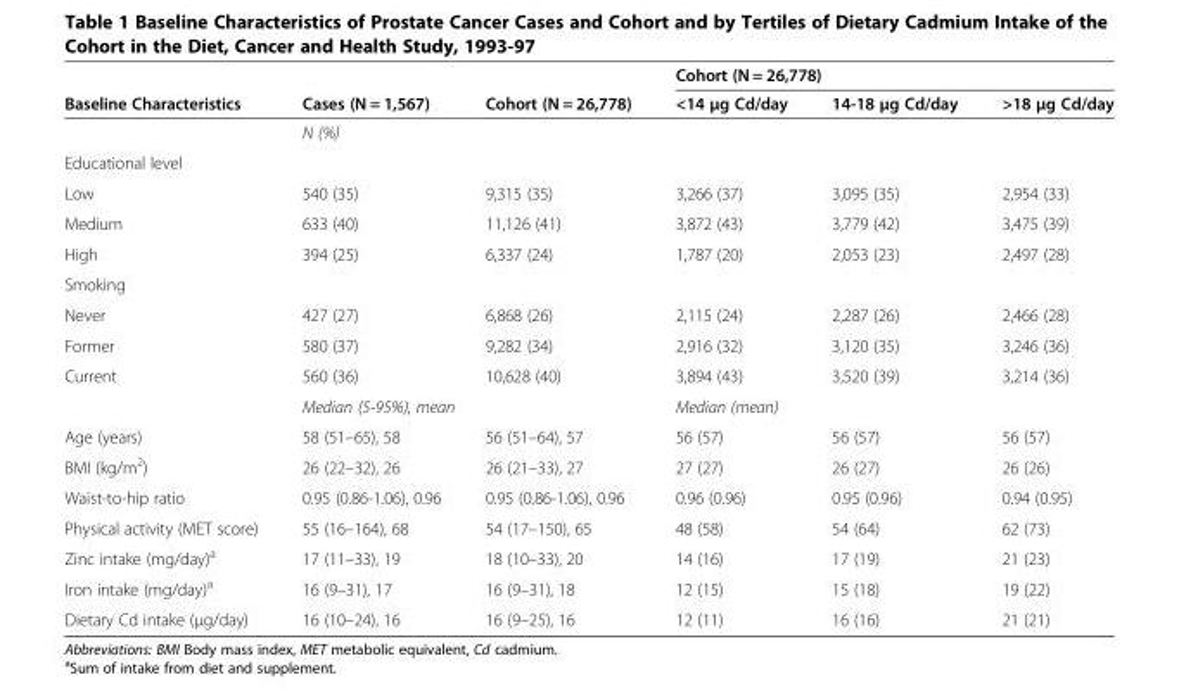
<table><thead><tr><td rowspan="2">Baseline Characteristics</td><td rowspan="2">Cases (N = 1,567)</td><td rowspan="2">Cohort (N = 26,778)</td><td colspan="3">Cohort (N = 26,778)</td></tr><tr><td>&lt;14 μg Cd/day</td><td>14-18 μg Cd/day</td><td>&gt;18 μg Cd/day</td></tr></thead><tbody><tr><td></td><td colspan="2">N (%)</td><td></td><td></td><td></td></tr><tr><td colspan="6">Educational level</td></tr><tr><td>Low</td><td>540 (35)</td><td>9,315 (35)</td><td>3,266 (37)</td><td>3,095 (35)</td><td>2,954 (33)</td></tr><tr><td>Medium</td><td>633 (40)</td><td>11,126 (41)</td><td>3,872 (43)</td><td>3,779 (42)</td><td>3,475 (39)</td></tr><tr><td>High</td><td>394 (25)</td><td>6,337 (24)</td><td>1,787 (20)</td><td>2,053 (23)</td><td>2,497 (28)</td></tr><tr><td colspan="6">Smoking</td></tr><tr><td>Never</td><td>427 (27)</td><td>6,868 (26)</td><td>2,115 (24)</td><td>2,287 (26)</td><td>2,466 (28)</td></tr><tr><td>Former</td><td>580 (37)</td><td>9,282 (34)</td><td>2,916 (32)</td><td>3,120 (35)</td><td>3,246 (36)</td></tr><tr><td rowspan="2">Current</td><td>560 (36)</td><td>10,628 (40)</td><td>3,894 (43)</td><td>3,520 (39)</td><td>3,214 (36)</td></tr><tr><td colspan="2">Median (5-95%), mean</td><td colspan="3">Median (mean)</td></tr><tr><td>Age (years)</td><td>58 (51–65), 58</td><td>56 (51–64), 57</td><td>56 (57)</td><td>56 (57)</td><td>56 (57)</td></tr><tr><td>BMI (kg/m<sup>2</sup>)</td><td>26 (22–32), 26</td><td>26 (21–33), 27</td><td>27 (27)</td><td>26 (27)</td><td>26 (26)</td></tr><tr><td>Waist-to-hip ratio</td><td>0.95 (0.86-1.06), 0.96</td><td>0.95 (0.86-1.06), 0.96</td><td>0.96 (0.96)</td><td>0.95 (0.96)</td><td>0.94 (0.95)</td></tr><tr><td>Physical activity (MET score)</td><td>55 (16–164), 68</td><td>54 (17–150), 65</td><td>48 (58)</td><td>54 (64)</td><td>62 (73)</td></tr><tr><td>Zinc intake (mg/day)<sup>a</sup></td><td>17 (11–33), 19</td><td>18 (10–33), 20</td><td>14 (16)</td><td>17 (19)</td><td>21 (23)</td></tr><tr><td>Iron intake (mg/day)<sup>a</sup></td><td>16 (9–31), 17</td><td>16 (9–31), 18</td><td>12 (15)</td><td>15 (18)</td><td>19 (22)</td></tr><tr><td>Dietary Cd intake (μg/day)</td><td>16 (10–24), 16</td><td>16 (9–25), 16</td><td>12 (11)</td><td>16 (16)</td><td>21 (21)</td></tr></tbody></table>